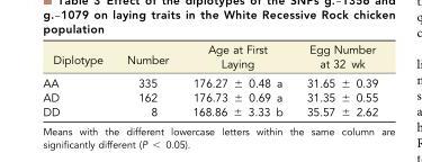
<table><thead><tr><td>Diplotype</td><td>Number</td><td>Age at First Laying</td><td>Egg Number at 32 wk</td></tr></thead><tbody><tr><td>AA</td><td>335</td><td>176.27 ± 0.48 a</td><td>31.65 ± 0.39</td></tr><tr><td>AD</td><td>162</td><td>176.73 ± 0.69 a</td><td>31.35 ± 0.55</td></tr><tr><td>DD</td><td>8</td><td>168.86 ± 3.33 b</td><td>35.57 ± 2.62</td></tr></tbody></table>